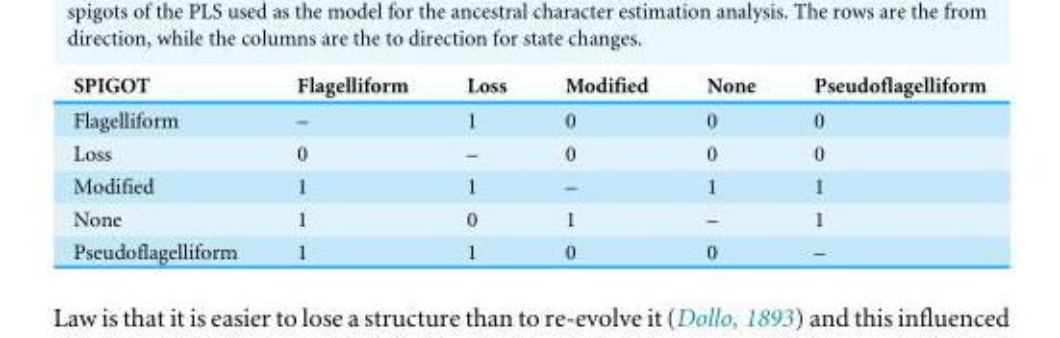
<table><thead><tr><td>SPIGOT</td><td>Flagelliform</td><td>Loss</td><td>Modified</td><td>None</td><td>Pseudoflagelliform</td></tr></thead><tbody><tr><td>Flagelliform</td><td>–</td><td>1</td><td>0</td><td>0</td><td>0</td></tr><tr><td>Loss</td><td>0</td><td>–</td><td>0</td><td>0</td><td>0</td></tr><tr><td>Modified</td><td>1</td><td>1</td><td>–</td><td>1</td><td>1</td></tr><tr><td>None</td><td>1</td><td>0</td><td>1</td><td>–</td><td>1</td></tr><tr><td>Pseudoflagelliform</td><td>1</td><td>1</td><td>0</td><td>0</td><td>–</td></tr></tbody></table>